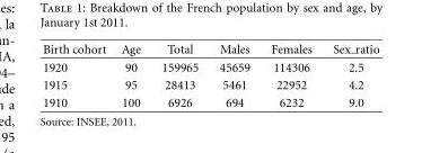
<table><thead><tr><td>Birth cohort</td><td>Age</td><td>Total</td><td>Males</td><td>Females</td><td>Sex ratio</td></tr></thead><tbody><tr><td>1920</td><td>90</td><td>159965</td><td>45659</td><td>114306</td><td>2.5</td></tr><tr><td>1915</td><td>95</td><td>28413</td><td>5461</td><td>22952</td><td>4.2</td></tr><tr><td>1910</td><td>100</td><td>6926</td><td>694</td><td>6232</td><td>9.0</td></tr></tbody></table>